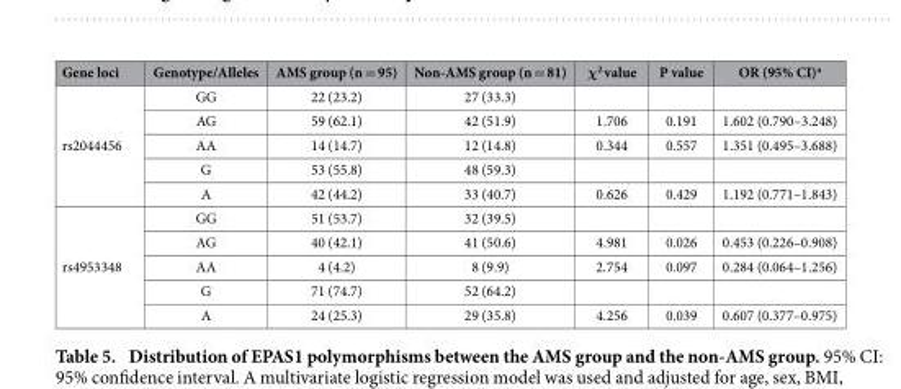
<table><thead><tr><td>Gene loci</td><td>Genotype/Alleles</td><td>AMS group (n = 95)</td><td>Non-AMS group (n = 81)</td><td>χ<sup>2</sup> value</td><td>P value</td><td>OR (95% CI)<sup>a</sup></td></tr></thead><tbody><tr><td rowspan="5">rs2044456</td><td>GG</td><td>22 (23.2)</td><td>27 (33.3)</td><td></td><td></td><td></td></tr><tr><td>AG</td><td>59 (62.1)</td><td>42 (51.9)</td><td>1.706</td><td>0.191</td><td>1.602 (0.790–3.248)</td></tr><tr><td>AA</td><td>14 (14.7)</td><td>12 (14.8)</td><td>0.344</td><td>0.557</td><td>1.351 (0.495–3.688)</td></tr><tr><td>G</td><td>53 (55.8)</td><td>48 (59.3)</td><td></td><td></td><td></td></tr><tr><td>A</td><td>42 (44.2)</td><td>33 (40.7)</td><td>0.626</td><td>0.429</td><td>1.192 (0.771–1.843)</td></tr><tr><td rowspan="5">rs4953348</td><td>GG</td><td>51 (53.7)</td><td>32 (39.5)</td><td></td><td></td><td></td></tr><tr><td>AG</td><td>40 (42.1)</td><td>41 (50.6)</td><td>4.981</td><td>0.026</td><td>0.453 (0.226–0.908)</td></tr><tr><td>AA</td><td>4 (4.2)</td><td>8 (9.9)</td><td>2.754</td><td>0.097</td><td>0.284 (0.064–1.256)</td></tr><tr><td>G</td><td>71 (74.7)</td><td>52 (64.2)</td><td></td><td></td><td></td></tr><tr><td>A</td><td>24 (25.3)</td><td>29 (35.8)</td><td>4.256</td><td>0.039</td><td>0.607 (0.377–0.975)</td></tr></tbody></table>